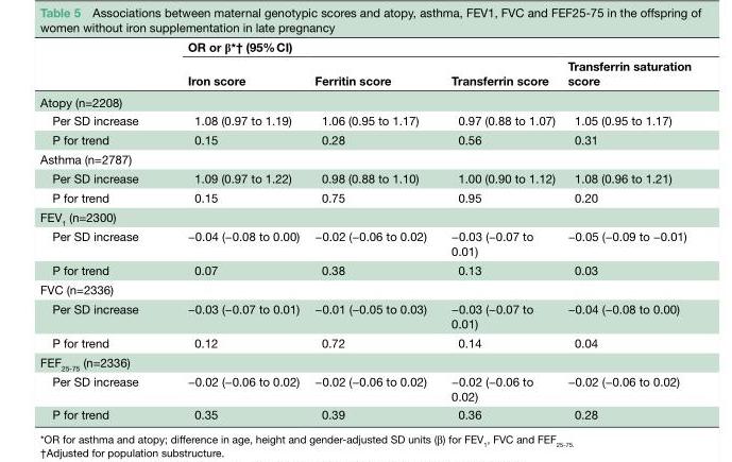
<table><thead><tr><td rowspan="2"></td><td colspan="4">OR or β*† (95% CI)</td></tr><tr><td>Iron score</td><td>Ferritin score</td><td>Transferrin score</td><td>Transferrin saturation score</td></tr></thead><tbody><tr><td colspan="5">Atopy (n=2208)</td></tr><tr><td>Per SD increase</td><td>1.08 (0.97 to 1.19)</td><td>1.06 (0.95 to 1.17)</td><td>0.97 (0.88 to 1.07)</td><td>1.05 (0.95 to 1.17)</td></tr><tr><td>P for trend</td><td>0.15</td><td>0.28</td><td>0.56</td><td>0.31</td></tr><tr><td colspan="5">Asthma (n=2787)</td></tr><tr><td>Per SD increase</td><td>1.09 (0.97 to 1.22)</td><td>0.98 (0.88 to 1.10)</td><td>1.00 (0.90 to 1.12)</td><td>1.08 (0.96 to 1.21)</td></tr><tr><td>P for trend</td><td>0.15</td><td>0.75</td><td>0.95</td><td>0.20</td></tr><tr><td colspan="5">FEV<sub>1</sub> (n=2300)</td></tr><tr><td>Per SD increase</td><td>−0.04 (−0.08 to 0.00)</td><td>−0.02 (−0.06 to 0.02)</td><td>−0.03 (−0.07 to 0.01)</td><td>−0.05 (−0.09 to −0.01)</td></tr><tr><td>P for trend</td><td>0.07</td><td>0.38</td><td>0.13</td><td>0.03</td></tr><tr><td colspan="5">FVC (n=2336)</td></tr><tr><td>Per SD increase</td><td>−0.03 (−0.07 to 0.01)</td><td>−0.01 (−0.05 to 0.03)</td><td>−0.03 (−0.07 to 0.01)</td><td>−0.04 (−0.08 to 0.00)</td></tr><tr><td>P for trend</td><td>0.12</td><td>0.72</td><td>0.14</td><td>0.04</td></tr><tr><td colspan="5">FEF<sub>25-75</sub> (n=2336)</td></tr><tr><td>Per SD increase</td><td>−0.02 (−0.06 to 0.02)</td><td>−0.02 (−0.06 to 0.02)</td><td>−0.02 (−0.06 to 0.02)</td><td>−0.02 (−0.06 to 0.02)</td></tr><tr><td>P for trend</td><td>0.35</td><td>0.39</td><td>0.36</td><td>0.28</td></tr></tbody></table>